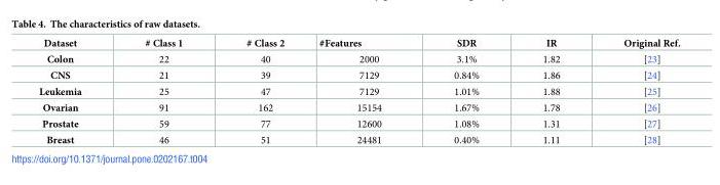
<table><thead><tr><td>Dataset</td><td># Class 1</td><td># Class 2</td><td>#Features</td><td>SDR</td><td>IR</td><td>Original Ref.</td></tr></thead><tbody><tr><td>Colon</td><td>22</td><td>40</td><td>2000</td><td>3.1%</td><td>1.82</td><td>[23]</td></tr><tr><td>CNS</td><td>21</td><td>39</td><td>7129</td><td>0.84%</td><td>1.86</td><td>[24]</td></tr><tr><td>Leukemia</td><td>25</td><td>47</td><td>7129</td><td>1.01%</td><td>1.88</td><td>[25]</td></tr><tr><td>Ovarian</td><td>91</td><td>162</td><td>15154</td><td>1.67%</td><td>1.78</td><td>[26]</td></tr><tr><td>Prostate</td><td>59</td><td>77</td><td>12600</td><td>1.08%</td><td>1.31</td><td>[27]</td></tr><tr><td>Breast</td><td>46</td><td>51</td><td>24481</td><td>0.40%</td><td>1.11</td><td>[28]</td></tr></tbody></table>